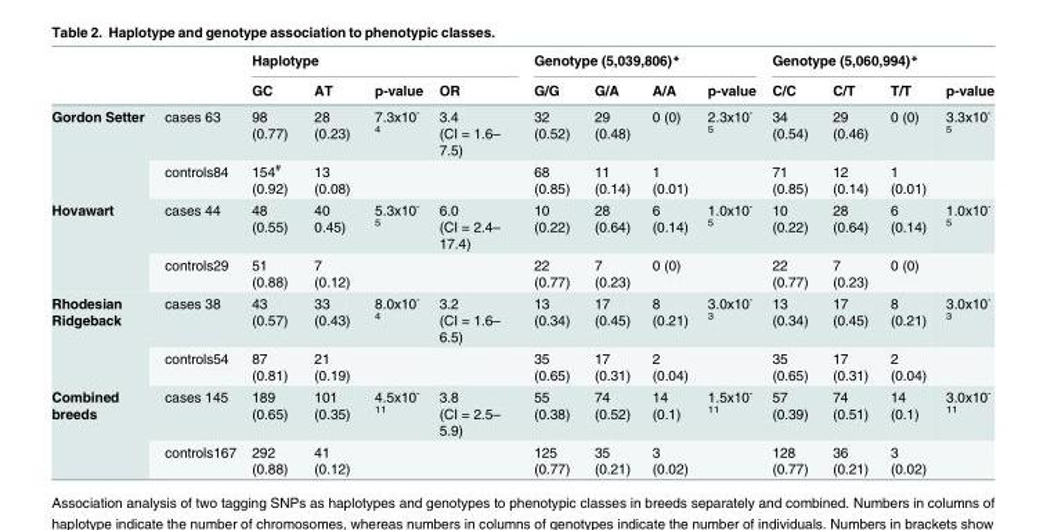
<table><thead><tr><td rowspan="2"></td><td rowspan="2"></td><td colspan="4">Haplotype</td><td colspan="4">Genotype (5,039,806)*</td><td colspan="4">Genotype (5,060,994)*</td></tr><tr><td>GC</td><td>AT</td><td>p-value</td><td>OR</td><td>G/G</td><td>G/A</td><td>A/A</td><td>p-value</td><td>C/C</td><td>C/T</td><td>T/T</td><td>p-value</td></tr></thead><tbody><tr><td rowspan="2">Gordon Setter</td><td>cases 63</td><td>98 (0.77)</td><td>28 (0.23)</td><td>7.3x10<sup>- 4</sup></td><td>3.4 (CI = 1.6– 7.5)</td><td>32 (0.52)</td><td>29 (0.48)</td><td>0 (0)</td><td>2.3x10<sup>- 5</sup></td><td>34 (0.54)</td><td>29 (0.46)</td><td>0 (0)</td><td>3.3x10<sup>- 5</sup></td></tr><tr><td>controls84</td><td>154<sup>#</sup> (0.92)</td><td>13 (0.08)</td><td></td><td></td><td>68 (0.85)</td><td>11 (0.14)</td><td>1 (0.01)</td><td></td><td>71 (0.85)</td><td>12 (0.14)</td><td>1 (0.01)</td><td></td></tr><tr><td rowspan="2">Hovawart</td><td>cases 44</td><td>48 (0.55)</td><td>40 0.45)</td><td>5.3x10<sup>- 5</sup></td><td>6.0 (CI = 2.4– 17.4)</td><td>10 (0.22)</td><td>28 (0.64)</td><td>6 (0.14)</td><td>1.0x10<sup>- 5</sup></td><td>10 (0.22)</td><td>28 (0.64)</td><td>6 (0.14)</td><td>1.0x10<sup>- 5</sup></td></tr><tr><td>controls29</td><td>51 (0.88)</td><td>7 (0.12)</td><td></td><td></td><td>22 (0.77)</td><td>7 (0.23)</td><td>0 (0)</td><td></td><td>22 (0.77)</td><td>7 (0.23)</td><td>0 (0)</td><td></td></tr><tr><td rowspan="2">Rhodesian Ridgeback</td><td>cases 38</td><td>43 (0.57)</td><td>33 (0.43)</td><td>8.0x10<sup>- 4</sup></td><td>3.2 (CI = 1.6– 6.5)</td><td>13 (0.34)</td><td>17 (0.45)</td><td>8 (0.21)</td><td>3.0x10<sup>- 3</sup></td><td>13 (0.34)</td><td>17 (0.45)</td><td>8 (0.21)</td><td>3.0x10<sup>- 3</sup></td></tr><tr><td>controls54</td><td>87 (0.81)</td><td>21 (0.19)</td><td></td><td></td><td>35 (0.65)</td><td>17 (0.31)</td><td>2 (0.04)</td><td></td><td>35 (0.65)</td><td>17 (0.31)</td><td>2 (0.04)</td><td></td></tr><tr><td rowspan="2">Combined breeds</td><td>cases 145</td><td>189 (0.65)</td><td>101 (0.35)</td><td>4.5x10<sup>- 11</sup></td><td>3.8 (CI = 2.5– 5.9)</td><td>55 (0.38)</td><td>74 (0.52)</td><td>14 (0.1)</td><td>1.5x10<sup>- 11</sup></td><td>57 (0.39)</td><td>74 (0.51)</td><td>14 (0.1)</td><td>3.0x10<sup>- 11</sup></td></tr><tr><td>controls167</td><td>292 (0.88)</td><td>41 (0.12)</td><td></td><td></td><td>125 (0.77)</td><td>35 (0.21)</td><td>3 (0.02)</td><td></td><td>128 (0.77)</td><td>36 (0.21)</td><td>3 (0.02)</td><td></td></tr></tbody></table>